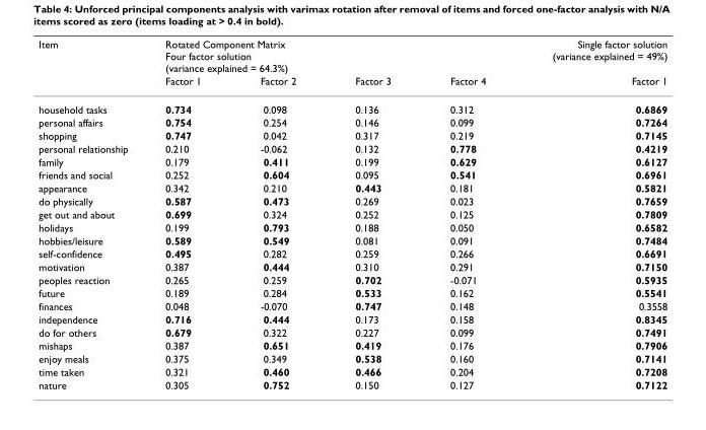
<table><thead><tr><td rowspan="2">Item</td><td colspan="4">Rotated Component Matrix Four factor solution (variance explained = 64.3%)</td><td rowspan="2">Single factor solution (variance explained = 49%) Factor 1</td></tr><tr><td>Factor 1</td><td>Factor 2</td><td>Factor 3</td><td>Factor 4</td></tr></thead><tbody><tr><td>household tasks</td><td>0.734</td><td>0.098</td><td>0.136</td><td>0.312</td><td>0.6869</td></tr><tr><td>personal affairs</td><td>0.754</td><td>0.254</td><td>0.146</td><td>0.099</td><td>0.7264</td></tr><tr><td>shopping</td><td>0.747</td><td>0.042</td><td>0.317</td><td>0.219</td><td>0.7145</td></tr><tr><td>personal relationship</td><td>0.210</td><td>-0.062</td><td>0.132</td><td>0.778</td><td>0.4219</td></tr><tr><td>family</td><td>0.179</td><td>0.411</td><td>0.199</td><td>0.629</td><td>0.6127</td></tr><tr><td>friends and social</td><td>0.252</td><td>0.604</td><td>0.095</td><td>0.541</td><td>0.6961</td></tr><tr><td>appearance</td><td>0.342</td><td>0.210</td><td>0.443</td><td>0.181</td><td>0.5821</td></tr><tr><td>do physically</td><td>0.587</td><td>0.473</td><td>0.269</td><td>0.023</td><td>0.7659</td></tr><tr><td>get out and about</td><td>0.699</td><td>0.324</td><td>0.252</td><td>0.125</td><td>0.7809</td></tr><tr><td>holidays</td><td>0.199</td><td>0.793</td><td>0.188</td><td>0.050</td><td>0.6582</td></tr><tr><td>hobbies/leisure</td><td>0.589</td><td>0.549</td><td>0.081</td><td>0.091</td><td>0.7484</td></tr><tr><td>self-confidence</td><td>0.495</td><td>0.282</td><td>0.259</td><td>0.266</td><td>0.6691</td></tr><tr><td>motivation</td><td>0.387</td><td>0.444</td><td>0.310</td><td>0.291</td><td>0.7150</td></tr><tr><td>peoples reaction</td><td>0.265</td><td>0.259</td><td>0.702</td><td>-0.071</td><td>0.5935</td></tr><tr><td>future</td><td>0.189</td><td>0.284</td><td>0.533</td><td>0.162</td><td>0.5541</td></tr><tr><td>finances</td><td>0.048</td><td>-0.070</td><td>0.747</td><td>0.148</td><td>0.3558</td></tr><tr><td>independence</td><td>0.716</td><td>0.444</td><td>0.173</td><td>0.158</td><td>0.8345</td></tr><tr><td>do for others</td><td>0.679</td><td>0.322</td><td>0.227</td><td>0.099</td><td>0.7491</td></tr><tr><td>mishaps</td><td>0.387</td><td>0.651</td><td>0.419</td><td>0.176</td><td>0.7906</td></tr><tr><td>enjoy meals</td><td>0.375</td><td>0.349</td><td>0.538</td><td>0.160</td><td>0.7141</td></tr><tr><td>time taken</td><td>0.321</td><td>0.460</td><td>0.466</td><td>0.204</td><td>0.7208</td></tr><tr><td>nature</td><td>0.305</td><td>0.752</td><td>0.150</td><td>0.127</td><td>0.7122</td></tr></tbody></table>